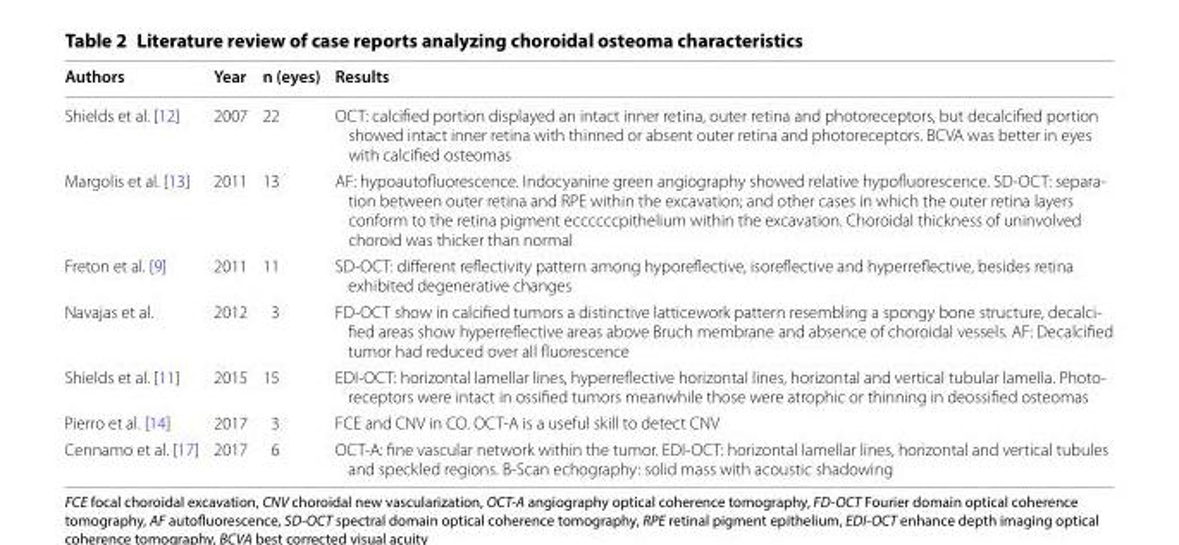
<table><thead><tr><td>Authors</td><td>Year</td><td>n (eyes)</td><td>Results</td></tr></thead><tbody><tr><td>Shields et al. [12]</td><td>2007</td><td>22</td><td>OCT: calcified portion displayed an intact inner retina, outer retina and photoreceptors, but decalcified portion showed intact inner retina with thinned or absent outer retina and photoreceptors. BCVA was better in eyes with calcified osteomas</td></tr><tr><td>Margolis et al. [13]</td><td>2011</td><td>13</td><td>AF: hypoautofluorescence. Indocyanine green angiography showed relative hypofluorescence. SD‑OCT: separa‑ tion between outer retina and RPE within the excavation; and other cases in which the outer retina layers conform to the retina pigment eccccccpithelium within the excavation. Choroidal thickness of uninvolved choroid was thicker than normal</td></tr><tr><td>Freton et al. [9]</td><td>2011</td><td>11</td><td>SD‑OCT: different reflectivity pattern among hyporeflective, isoreflective and hyperreflective, besides retina exhibited degenerative changes</td></tr><tr><td>Navajas et al.</td><td>2012</td><td>3</td><td>FD‑OCT show in calcified tumors a distinctive latticework pattern resembling a spongy bone structure, decalci‑ fied areas show hyperreflective areas above Bruch membrane and absence of choroidal vessels. AF: Decalcified tumor had reduced over all fluorescence</td></tr><tr><td>Shields et al. [11]</td><td>2015</td><td>15</td><td>EDI‑OCT: horizontal lamellar lines, hyperreflective horizontal lines, horizontal and vertical tubular lamella. Photo‑ receptors were intact in ossified tumors meanwhile those were atrophic or thinning in deossified osteomas</td></tr><tr><td>Pierro et al. [14]</td><td>2017</td><td>3</td><td>FCE and CNV in CO. OCT‑A is a useful skill to detect CNV</td></tr><tr><td>Cennamo et al. [17]</td><td>2017</td><td>6</td><td>OCT‑A: fine vascular network within the tumor. EDI‑OCT: horizontal lamellar lines, horizontal and vertical tubules and speckled regions. B‑Scan echography: solid mass with acoustic shadowing</td></tr></tbody></table>